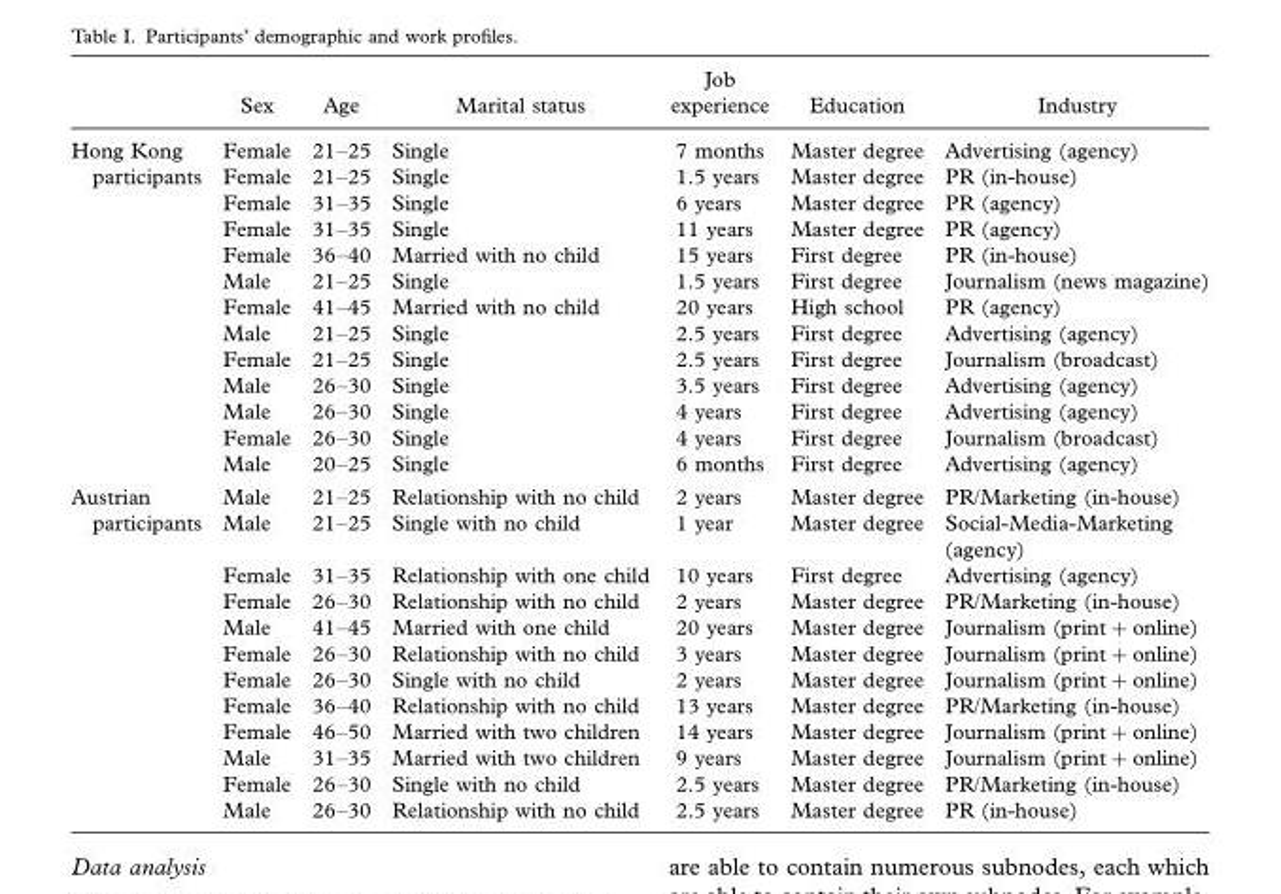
<table><thead><tr><td></td><td>Sex</td><td>Age</td><td>Marital status</td><td>Job experience</td><td>Education</td><td>Industry</td></tr></thead><tbody><tr><td>Hong Kong</td><td>Female</td><td>21–25</td><td>Single</td><td>7 months</td><td>Master degree</td><td>Advertising (agency)</td></tr><tr><td rowspan="12">participants</td><td>Female</td><td>21–25</td><td>Single</td><td>1.5 years</td><td>Master degree</td><td>PR (in-house)</td></tr><tr><td>Female</td><td>31–35</td><td>Single</td><td>6 years</td><td>Master degree</td><td>PR (agency)</td></tr><tr><td>Female</td><td>31–35</td><td>Single</td><td>11 years</td><td>Master degree</td><td>PR (agency)</td></tr><tr><td>Female</td><td>36–40</td><td>Married with no child</td><td>15 years</td><td>First degree</td><td>PR (in-house)</td></tr><tr><td>Male</td><td>21–25</td><td>Single</td><td>1.5 years</td><td>First degree</td><td>Journalism (news magazine)</td></tr><tr><td>Female</td><td>41–45</td><td>Married with no child</td><td>20 years</td><td>High school</td><td>PR (agency)</td></tr><tr><td>Male</td><td>21–25</td><td>Single</td><td>2.5 years</td><td>First degree</td><td>Advertising (agency)</td></tr><tr><td>Female</td><td>21–25</td><td>Single</td><td>2.5 years</td><td>First degree</td><td>Journalism (broadcast)</td></tr><tr><td>Male</td><td>26–30</td><td>Single</td><td>3.5 years</td><td>First degree</td><td>Advertising (agency)</td></tr><tr><td>Male</td><td>26–30</td><td>Single</td><td>4 years</td><td>First degree</td><td>Advertising (agency)</td></tr><tr><td>Female</td><td>26–30</td><td>Single</td><td>4 years</td><td>First degree</td><td>Journalism (broadcast)</td></tr><tr><td>Male</td><td>20–25</td><td>Single</td><td>6 months</td><td>First degree</td><td>Advertising (agency)</td></tr><tr><td>Austrian</td><td>Male</td><td>21–25</td><td>Relationship with no child</td><td>2 years</td><td>Master degree</td><td>PR/Marketing (in-house)</td></tr><tr><td rowspan="11">participants</td><td>Male</td><td>21–25</td><td>Single with no child</td><td>1 year</td><td>Master degree</td><td>Social-Media-Marketing (agency)</td></tr><tr><td>Female</td><td>31–35</td><td>Relationship with one child</td><td>10 years</td><td>First degree</td><td>Advertising (agency)</td></tr><tr><td>Female</td><td>26–30</td><td>Relationship with no child</td><td>2 years</td><td>Master degree</td><td>PR/Marketing (in-house)</td></tr><tr><td>Male</td><td>41–45</td><td>Married with one child</td><td>20 years</td><td>Master degree</td><td>Journalism (print+online)</td></tr><tr><td>Female</td><td>26–30</td><td>Relationship with no child</td><td>3 years</td><td>Master degree</td><td>Journalism (print+online)</td></tr><tr><td>Female</td><td>26–30</td><td>Single with no child</td><td>2 years</td><td>Master degree</td><td>Journalism (print+online)</td></tr><tr><td>Female</td><td>36–40</td><td>Relationship with no child</td><td>13 years</td><td>Master degree</td><td>PR/Marketing (in-house)</td></tr><tr><td>Female</td><td>46–50</td><td>Married with two children</td><td>14 years</td><td>Master degree</td><td>Journalism (print+online)</td></tr><tr><td>Male</td><td>31–35</td><td>Married with two children</td><td>9 years</td><td>Master degree</td><td>Journalism (print+online)</td></tr><tr><td>Female</td><td>26–30</td><td>Single with no child</td><td>2.5 years</td><td>Master degree</td><td>PR/Marketing (in-house)</td></tr><tr><td>Male</td><td>26–30</td><td>Relationship with no child</td><td>2.5 years</td><td>Master degree</td><td>PR (in-house)</td></tr></tbody></table>